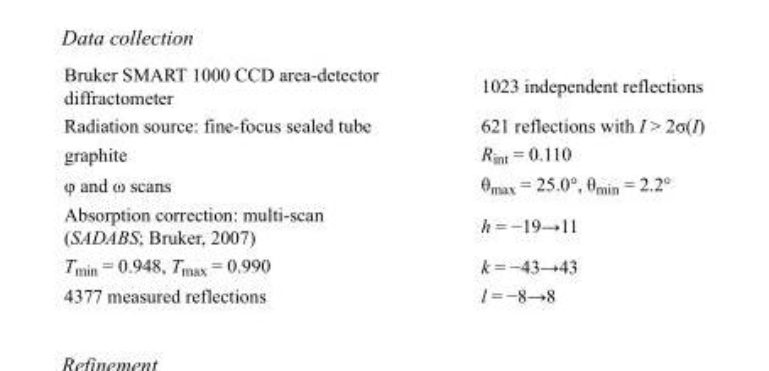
<table><tbody><tr><td>Bruker SMART 1000 CCD area-detector diffractometer</td><td>1023 independent reflections</td></tr><tr><td>Radiation source: fine-focus sealed tube</td><td>621 reflections with I &gt; 2σ(I)</td></tr><tr><td>graphite</td><td>R<sub>int</sub> = 0.110</td></tr><tr><td>φ and ω scans</td><td>θ<sub>max</sub> = 25.0°, θ<sub>min</sub> = 2.2°</td></tr><tr><td>Absorption correction: multi-scan (SADABS; Bruker, 2007)</td><td>h = −19→11</td></tr><tr><td>T<sub>min</sub> = 0.948, T<sub>max</sub> = 0.990</td><td>k = −43→43</td></tr><tr><td>4377 measured reflections</td><td>l = −8→8</td></tr></tbody></table>